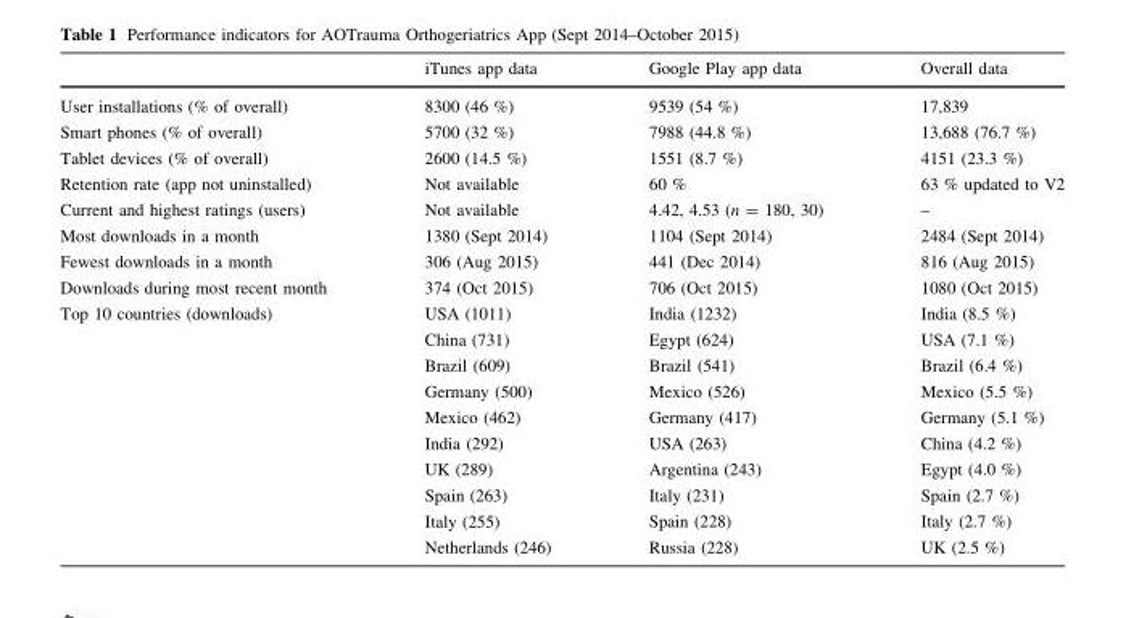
<table><thead><tr><td></td><td>iTunes app data</td><td>Google Play app data</td><td>Overall data</td></tr></thead><tbody><tr><td>User installations (% of overall)</td><td>8300 (46 %)</td><td>9539 (54 %)</td><td>17,839</td></tr><tr><td>Smart phones (% of overall)</td><td>5700 (32 %)</td><td>7988 (44.8 %)</td><td>13,688 (76.7 %)</td></tr><tr><td>Tablet devices (% of overall)</td><td>2600 (14.5 %)</td><td>1551 (8.7 %)</td><td>4151 (23.3 %)</td></tr><tr><td>Retention rate (app not uninstalled)</td><td>Not available</td><td>60 %</td><td>63 % updated to V2</td></tr><tr><td>Current and highest ratings (users)</td><td>Not available</td><td>4.42, 4.53 (n = 180, 30)</td><td>–</td></tr><tr><td>Most downloads in a month</td><td>1380 (Sept 2014)</td><td>1104 (Sept 2014)</td><td>2484 (Sept 2014)</td></tr><tr><td>Fewest downloads in a month</td><td>306 (Aug 2015)</td><td>441 (Dec 2014)</td><td>816 (Aug 2015)</td></tr><tr><td>Downloads during most recent month</td><td>374 (Oct 2015)</td><td>706 (Oct 2015)</td><td>1080 (Oct 2015)</td></tr><tr><td>Top 10 countries (downloads)</td><td>USA (1011) China (731) Brazil (609) Germany (500) Mexico (462) India (292) UK (289) Spain (263) Italy (255) Netherlands (246)</td><td>India (1232) Egypt (624) Brazil (541) Mexico (526) Germany (417) USA (263) Argentina (243) Italy (231) Spain (228) Russia (228)</td><td>India (8.5 %) USA (7.1 %) Brazil (6.4 %) Mexico (5.5 %) Germany (5.1 %) China (4.2 %) Egypt (4.0 %) Spain (2.7 %) Italy (2.7 %) UK (2.5 %)</td></tr></tbody></table>